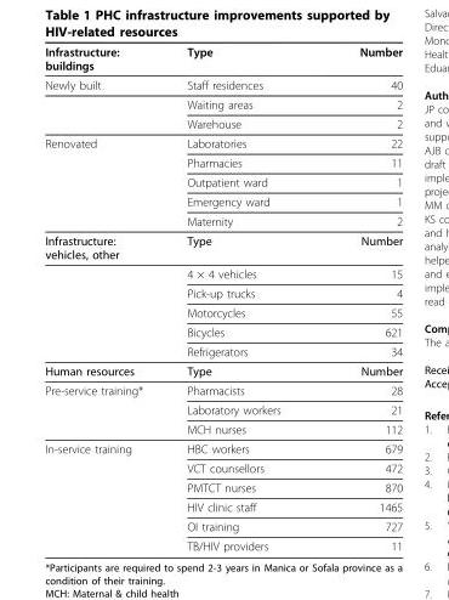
<table><thead><tr><td>Infrastructure: buildings</td><td>Type</td><td>Number</td></tr></thead><tbody><tr><td rowspan="3">Newly built</td><td>Staff residences</td><td>40</td></tr><tr><td>Waiting areas</td><td>2</td></tr><tr><td>Warehouse</td><td>2</td></tr><tr><td rowspan="5">Renovated</td><td>Laboratories</td><td>22</td></tr><tr><td>Pharmacies</td><td>11</td></tr><tr><td>Outpatient ward</td><td>1</td></tr><tr><td>Emergency ward</td><td>1</td></tr><tr><td>Maternity</td><td>2</td></tr><tr><td rowspan="6">Infrastructure: vehicles, other</td><td>Type</td><td>Number</td></tr><tr><td>4 × 4 vehicles</td><td>15</td></tr><tr><td>Pick-up trucks</td><td>4</td></tr><tr><td>Motorcycles</td><td>55</td></tr><tr><td>Bicycles</td><td>621</td></tr><tr><td>Refrigerators</td><td>34</td></tr><tr><td>Human resources</td><td>Type</td><td>Number</td></tr><tr><td rowspan="3">Pre-service training*</td><td>Pharmacists</td><td>28</td></tr><tr><td>Laboratory workers</td><td>21</td></tr><tr><td>MCH nurses</td><td>112</td></tr><tr><td rowspan="6">In-service training</td><td>HBC workers</td><td>679</td></tr><tr><td>VCT counsellors</td><td>472</td></tr><tr><td>PMTCT nurses</td><td>870</td></tr><tr><td>HIV clinic staff</td><td>1465</td></tr><tr><td>OI training</td><td>727</td></tr><tr><td>TB/HIV providers</td><td>11</td></tr></tbody></table>